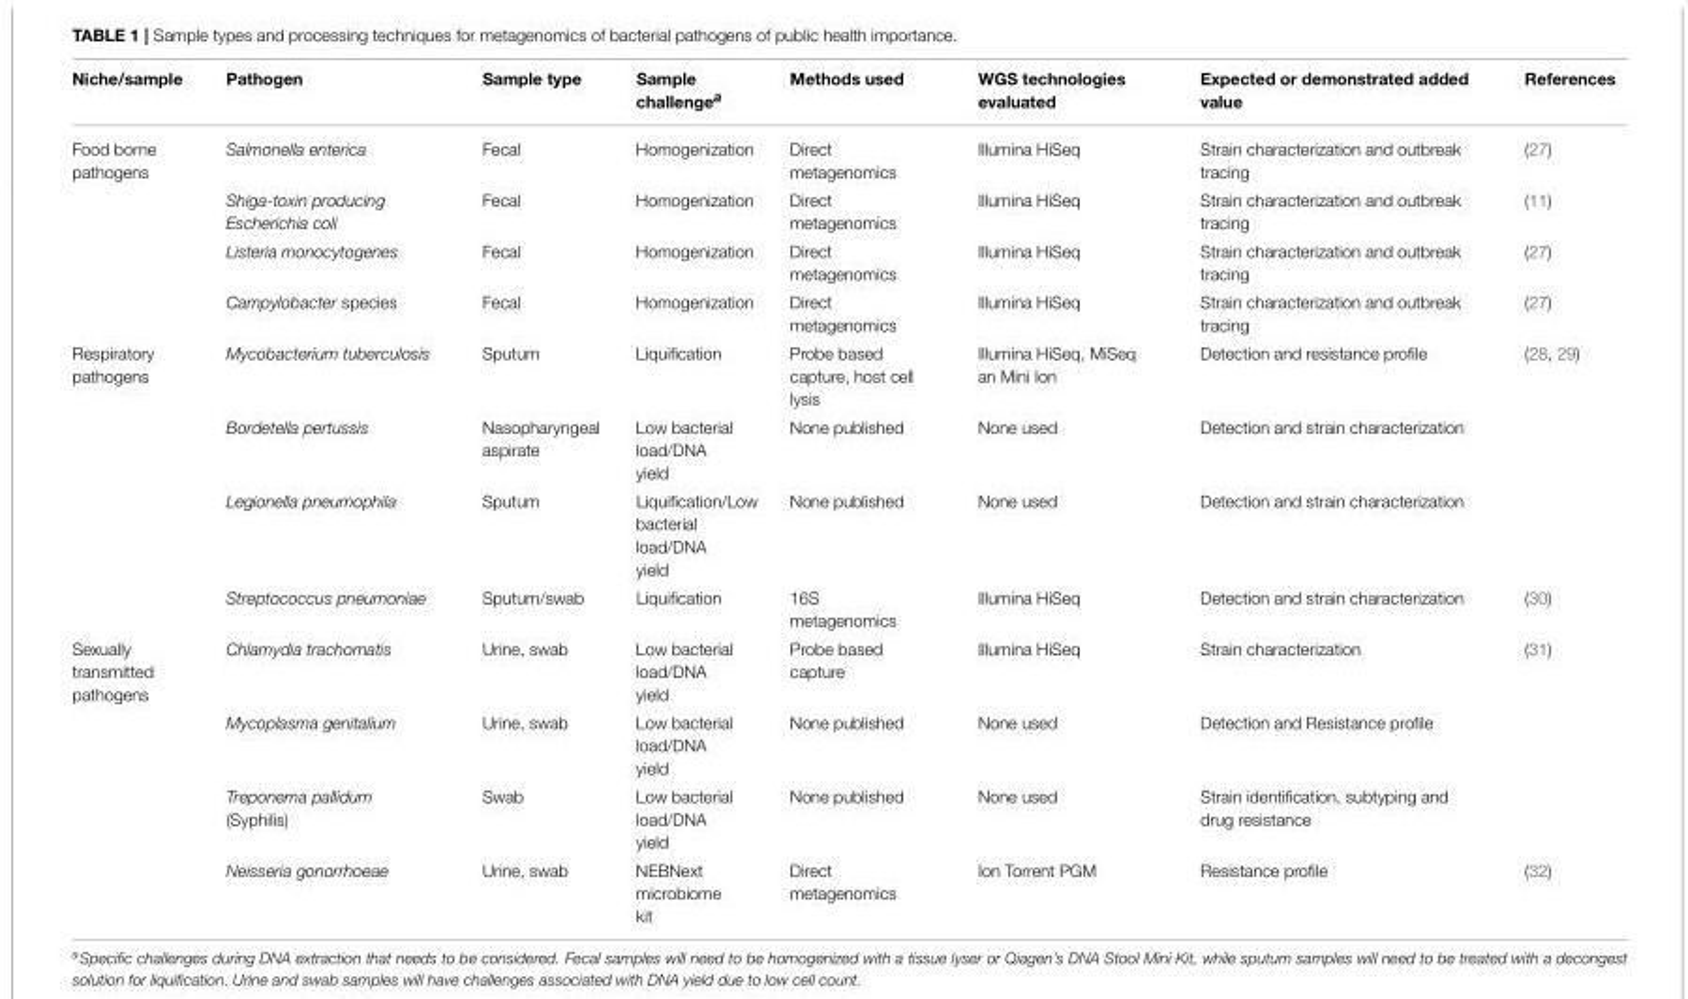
<table><thead><tr><td>Niche/sample</td><td>Pathogen</td><td>Sample type</td><td>Sample challenge<sup>a</sup></td><td>Methods used</td><td>WGS technologies evaluated</td><td>Expected or demonstrated added value</td><td>References</td></tr></thead><tbody><tr><td rowspan="4">Food borne pathogens</td><td>Salmonella enterica</td><td>Fecal</td><td>Homogenization</td><td>Direct metagenomics</td><td>Illumina HiSeq</td><td>Strain characterization and outbreak tracing</td><td>(27)</td></tr><tr><td>Shiga-toxin producing Escherichia coli</td><td>Fecal</td><td>Homogenization</td><td>Direct metagenomics</td><td>Illumina HiSeq</td><td>Strain characterization and outbreak tracing</td><td>(11)</td></tr><tr><td>Listeria monocytogenes</td><td>Fecal</td><td>Homogenization</td><td>Direct metagenomics</td><td>Illumina HiSeq</td><td>Strain characterization and outbreak tracing</td><td>(27)</td></tr><tr><td>Campylobacter species</td><td>Fecal</td><td>Homogenization</td><td>Direct metagenomics</td><td>Illumina HiSeq</td><td>Strain characterization and outbreak tracing</td><td>(27)</td></tr><tr><td rowspan="4">Respiratory pathogens</td><td>Mycobacterium tuberculosis</td><td>Sputum</td><td>Liquification</td><td>Probe based capture, host cell lysis</td><td>Illumina HiSeq, MiSeq an Mini Ion</td><td>Detection and resistance profile</td><td>(28, 29)</td></tr><tr><td>Bordetella pertussis</td><td>Nasopharyngeal aspirate</td><td>Low bacterial load/DNA yield</td><td>None published</td><td>None used</td><td>Detection and strain characterization</td><td></td></tr><tr><td>Legionella pneumophila</td><td>Sputum</td><td>Liquification/Low bacterial load/DNA yield</td><td>None published</td><td>None used</td><td>Detection and strain characterization</td><td></td></tr><tr><td>Streptococcus pneumoniae</td><td>Sputum/swab</td><td>Liquification</td><td>16S metagenomics</td><td>Illumina HiSeq</td><td>Detection and strain characterization</td><td>(30)</td></tr><tr><td rowspan="4">Sexually transmitted pathogens</td><td>Chlamydia trachomatis</td><td>Urine, swab</td><td>Low bacterial load/DNA yield</td><td>Probe based capture</td><td>Illumina HiSeq</td><td>Strain characterization</td><td>(31)</td></tr><tr><td>Mycoplasma genitalium</td><td>Urine, swab</td><td>Low bacterial load/DNA yield</td><td>None published</td><td>None used</td><td>Detection and Resistance profile</td><td></td></tr><tr><td>Treponema pallidum (Syphilis)</td><td>Swab</td><td>Low bacterial load/DNA yield</td><td>None published</td><td>None used</td><td>Strain identification, subtyping and drug resistance</td><td></td></tr><tr><td>Neisseria gonorrhoeae</td><td>Urine, swab</td><td>NEBNext microbiome kit</td><td>Direct metagenomics</td><td>Ion Torrent PGM</td><td>Resistance profile</td><td>(32)</td></tr></tbody></table>